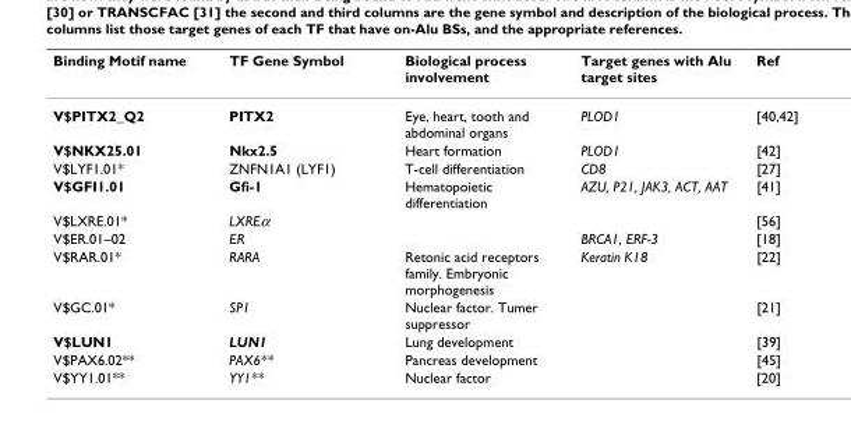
<table><thead><tr><td>Binding Motif name</td><td>TF Gene Symbol</td><td>Biological process involvement</td><td>Target genes with Alu target sites</td><td>Ref</td></tr></thead><tbody><tr><td>V$PITX2_Q2</td><td>PITX2</td><td>Eye, heart, tooth and abdominal organs</td><td>PLOD1</td><td>[40,42]</td></tr><tr><td>V$NKX25.01</td><td>Nkx2.5</td><td>Heart formation</td><td>PLOD1</td><td>[42]</td></tr><tr><td>V$LYF1.01*</td><td>ZNFN1A1 (LYF1)</td><td>T-cell differentiation</td><td>CD8</td><td>[27]</td></tr><tr><td>V$GFI1.01</td><td>Gfi-1</td><td>Hematopoietic differentiation</td><td>AZU, P21, JAK3, ACT, AAT</td><td>[41]</td></tr><tr><td>V$LXRE.01*</td><td>LXREα</td><td></td><td></td><td>[56]</td></tr><tr><td>V$ER.01–02</td><td>ER</td><td></td><td>BRCA1, ERF-3</td><td>[18]</td></tr><tr><td>V$RAR.01*</td><td>RARA</td><td>Retonic acid receptors family. Embryonic morphogenesis</td><td>Keratin K18</td><td>[22]</td></tr><tr><td>V$GC.01*</td><td>SP1</td><td>Nuclear factor. Tumer suppressor</td><td></td><td>[21]</td></tr><tr><td>V$LUN1</td><td>LUN1</td><td>Lung development</td><td></td><td>[39]</td></tr><tr><td>V$PAX6.02**</td><td>PAX6**</td><td>Pancreas development</td><td></td><td>[45]</td></tr><tr><td>V$YY1.01**</td><td>YY1**</td><td>Nuclear factor</td><td></td><td>[20]</td></tr></tbody></table>